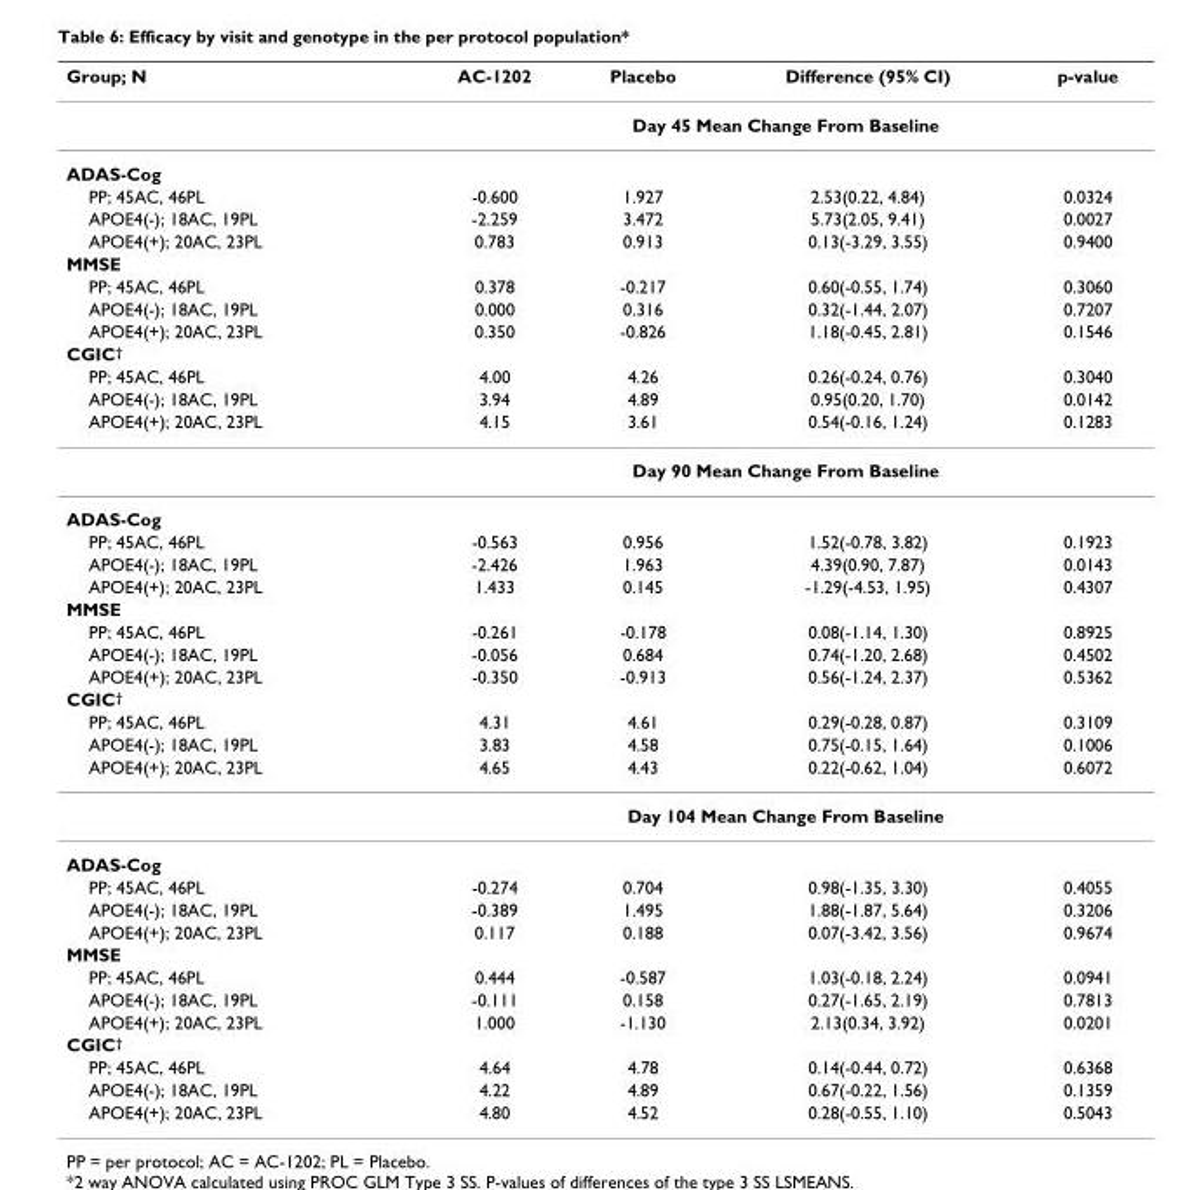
<table><thead><tr><td>Group; N</td><td>AC-1202</td><td>Placebo</td><td>Difference (95% CI)</td><td>p-value</td></tr></thead><tbody><tr><td></td><td colspan="4">Day 45 Mean Change From Baseline</td></tr><tr><td colspan="5">ADAS-Cog</td></tr><tr><td>PP; 45AC, 46PL</td><td>-0.600</td><td>1.927</td><td>2.53(0.22, 4.84)</td><td>0.0324</td></tr><tr><td>APOE4(-); 18AC, 19PL</td><td>-2.259</td><td>3.472</td><td>5.73(2.05, 9.41)</td><td>0.0027</td></tr><tr><td>APOE4(+); 20AC, 23PL</td><td>0.783</td><td>0.913</td><td>0.13(-3.29, 3.55)</td><td>0.9400</td></tr><tr><td colspan="5">MMSE</td></tr><tr><td>PP; 45AC, 46PL</td><td>0.378</td><td>-0.217</td><td>0.60(-0.55, 1.74)</td><td>0.3060</td></tr><tr><td>APOE4(-); 18AC, 19PL</td><td>0.000</td><td>0.316</td><td>0.32(-1.44, 2.07)</td><td>0.7207</td></tr><tr><td>APOE4(+); 20AC, 23PL</td><td>0.350</td><td>-0.826</td><td>1.18(-0.45, 2.81)</td><td>0.1546</td></tr><tr><td colspan="5">CGIC<sup>†</sup></td></tr><tr><td>PP; 45AC, 46PL</td><td>4.00</td><td>4.26</td><td>0.26(-0.24, 0.76)</td><td>0.3040</td></tr><tr><td>APOE4(-); 18AC, 19PL</td><td>3.94</td><td>4.89</td><td>0.95(0.20, 1.70)</td><td>0.0142</td></tr><tr><td rowspan="2">APOE4(+); 20AC, 23PL</td><td>4.15</td><td>3.61</td><td>0.54(-0.16, 1.24)</td><td>0.1283</td></tr><tr><td colspan="4">Day 90 Mean Change From Baseline</td></tr><tr><td colspan="5">ADAS-Cog</td></tr><tr><td>PP; 45AC, 46PL</td><td>-0.563</td><td>0.956</td><td>1.52(-0.78, 3.82)</td><td>0.1923</td></tr><tr><td>APOE4(-); 18AC, 19PL</td><td>-2.426</td><td>1.963</td><td>4.39(0.90, 7.87)</td><td>0.0143</td></tr><tr><td>APOE4(+); 20AC, 23PL</td><td>1.433</td><td>0.145</td><td>-1.29(-4.53, 1.95)</td><td>0.4307</td></tr><tr><td colspan="5">MMSE</td></tr><tr><td>PP; 45AC, 46PL</td><td>-0.261</td><td>-0.178</td><td>0.08(-1.14, 1.30)</td><td>0.8925</td></tr><tr><td>APOE4(-); 18AC, 19PL</td><td>-0.056</td><td>0.684</td><td>0.74(-1.20, 2.68)</td><td>0.4502</td></tr><tr><td>APOE4(+); 20AC, 23PL</td><td>-0.350</td><td>-0.913</td><td>0.56(-1.24, 2.37)</td><td>0.5362</td></tr><tr><td colspan="5">CGIC<sup>†</sup></td></tr><tr><td>PP; 45AC, 46PL</td><td>4.31</td><td>4.61</td><td>0.29(-0.28, 0.87)</td><td>0.3109</td></tr><tr><td>APOE4(-); 18AC, 19PL</td><td>3.83</td><td>4.58</td><td>0.75(-0.15, 1.64)</td><td>0.1006</td></tr><tr><td rowspan="2">APOE4(+); 20AC, 23PL</td><td>4.65</td><td>4.43</td><td>0.22(-0.62, 1.04)</td><td>0.6072</td></tr><tr><td colspan="4">Day 104 Mean Change From Baseline</td></tr><tr><td colspan="5">ADAS-Cog</td></tr><tr><td>PP; 45AC, 46PL</td><td>-0.274</td><td>0.704</td><td>0.98(-1.35, 3.30)</td><td>0.4055</td></tr><tr><td>APOE4(-); 18AC, 19PL</td><td>-0.389</td><td>1.495</td><td>1.88(-1.87, 5.64)</td><td>0.3206</td></tr><tr><td>APOE4(+); 20AC, 23PL</td><td>0.117</td><td>0.188</td><td>0.07(-3.42, 3.56)</td><td>0.9674</td></tr><tr><td colspan="5">MMSE</td></tr><tr><td>PP; 45AC, 46PL</td><td>0.444</td><td>-0.587</td><td>1.03(-0.18, 2.24)</td><td>0.0941</td></tr><tr><td>APOE4(-); 18AC, 19PL</td><td>-0.111</td><td>0.158</td><td>0.27(-1.65, 2.19)</td><td>0.7813</td></tr><tr><td>APOE4(+); 20AC, 23PL</td><td>1.000</td><td>-1.130</td><td>2.13(0.34, 3.92)</td><td>0.0201</td></tr><tr><td colspan="5">CGIC<sup>†</sup></td></tr><tr><td>PP; 45AC, 46PL</td><td>4.64</td><td>4.78</td><td>0.14(-0.44, 0.72)</td><td>0.6368</td></tr><tr><td>APOE4(-); 18AC, 19PL</td><td>4.22</td><td>4.89</td><td>0.67(-0.22, 1.56)</td><td>0.1359</td></tr><tr><td>APOE4(+); 20AC, 23PL</td><td>4.80</td><td>4.52</td><td>0.28(-0.55, 1.10)</td><td>0.5043</td></tr></tbody></table>